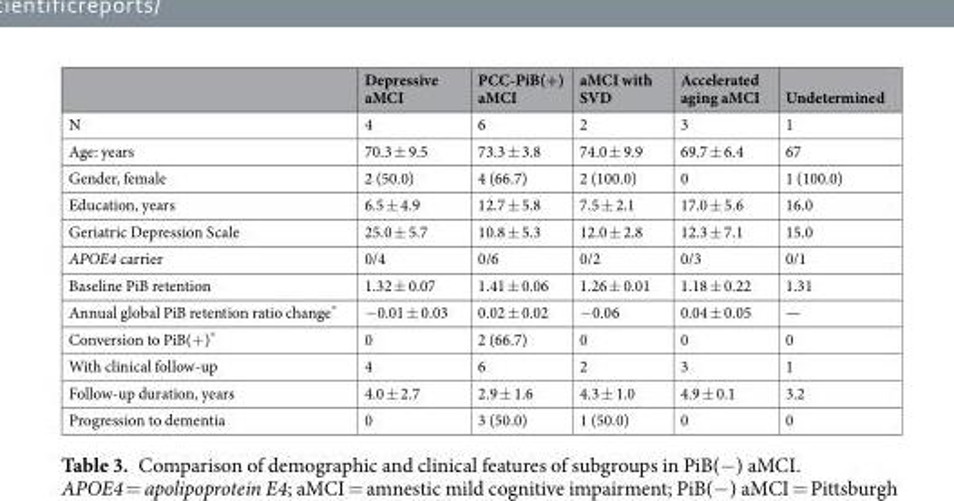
<table><thead><tr><td></td><td>Depressive aMCI</td><td>PCC-PiB(+) aMCI</td><td>aMCI with SVD</td><td>Accelerated aging aMCI</td><td>Undetermined</td></tr></thead><tbody><tr><td>N</td><td>4</td><td>6</td><td>2</td><td>3</td><td>1</td></tr><tr><td>Age: years</td><td>70.3 ± 9.5</td><td>73.3 ± 3.8</td><td>74.0 ± 9.9</td><td>69.7 ± 6.4</td><td>67</td></tr><tr><td>Gender, female</td><td>2 (50.0)</td><td>4 (66.7)</td><td>2 (100.0)</td><td>0</td><td>1 (100.0)</td></tr><tr><td>Education, years</td><td>6.5 ± 4.9</td><td>12.7 ± 5.8</td><td>7.5 ± 2.1</td><td>17.0 ± 5.6</td><td>16.0</td></tr><tr><td>Geriatric Depression Scale</td><td>25.0 ± 5.7</td><td>10.8 ± 5.3</td><td>12.0 ± 2.8</td><td>12.3 ± 7.1</td><td>15.0</td></tr><tr><td>APOE4 carrier</td><td>0/4</td><td>0/6</td><td>0/2</td><td>0/3</td><td>0/1</td></tr><tr><td>Baseline PiB retention</td><td>1.32 ± 0.07</td><td>1.41 ± 0.06</td><td>1.26 ± 0.01</td><td>1.18 ± 0.22</td><td>1.31</td></tr><tr><td>Annual global PiB retention ratio change*</td><td>−0.01 ± 0.03</td><td>0.02 ± 0.02</td><td>−0.06</td><td>0.04 ± 0.05</td><td>—</td></tr><tr><td>Conversion to PiB(+)*</td><td>0</td><td>2 (66.7)</td><td>0</td><td>0</td><td>0</td></tr><tr><td>With clinical follow-up</td><td>4</td><td>6</td><td>2</td><td>3</td><td>1</td></tr><tr><td>Follow-up duration, years</td><td>4.0 ± 2.7</td><td>2.9 ± 1.6</td><td>4.3 ± 1.0</td><td>4.9 ± 0.1</td><td>3.2</td></tr><tr><td>Progression to dementia</td><td>0</td><td>3 (50.0)</td><td>1 (50.0)</td><td>0</td><td>0</td></tr></tbody></table>